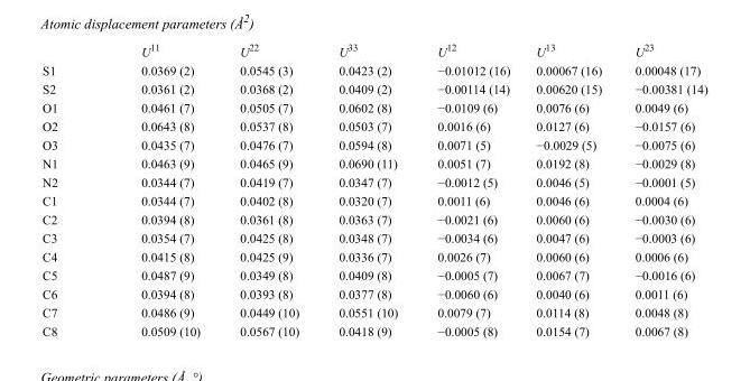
<table><thead><tr><td></td><td>U<sup>11</sup></td><td>U<sup>22</sup></td><td>U<sup>33</sup></td><td>U<sup>12</sup></td><td>U<sup>13</sup></td><td>U<sup>23</sup></td></tr></thead><tbody><tr><td>S1</td><td>0.0369 (2)</td><td>0.0545 (3)</td><td>0.0423 (2)</td><td>−0.01012 (16)</td><td>0.00067 (16)</td><td>0.00048 (17)</td></tr><tr><td>S2</td><td>0.0361 (2)</td><td>0.0368 (2)</td><td>0.0409 (2)</td><td>−0.00114 (14)</td><td>0.00620 (15)</td><td>−0.00381 (14)</td></tr><tr><td>O1</td><td>0.0461 (7)</td><td>0.0505 (7)</td><td>0.0602 (8)</td><td>−0.0109 (6)</td><td>0.0076 (6)</td><td>0.0049 (6)</td></tr><tr><td>O2</td><td>0.0643 (8)</td><td>0.0537 (8)</td><td>0.0503 (7)</td><td>0.0016 (6)</td><td>0.0127 (6)</td><td>−0.0157 (6)</td></tr><tr><td>O3</td><td>0.0435 (7)</td><td>0.0476 (7)</td><td>0.0594 (8)</td><td>0.0071 (5)</td><td>−0.0029 (5)</td><td>−0.0075 (6)</td></tr><tr><td>N1</td><td>0.0463 (9)</td><td>0.0465 (9)</td><td>0.0690 (11)</td><td>0.0051 (7)</td><td>0.0192 (8)</td><td>−0.0029 (8)</td></tr><tr><td>N2</td><td>0.0344 (7)</td><td>0.0419 (7)</td><td>0.0347 (7)</td><td>−0.0012 (5)</td><td>0.0046 (5)</td><td>−0.0001 (5)</td></tr><tr><td>C1</td><td>0.0344 (7)</td><td>0.0402 (8)</td><td>0.0320 (7)</td><td>0.0011 (6)</td><td>0.0046 (6)</td><td>0.0004 (6)</td></tr><tr><td>C2</td><td>0.0394 (8)</td><td>0.0361 (8)</td><td>0.0363 (7)</td><td>−0.0021 (6)</td><td>0.0060 (6)</td><td>−0.0030 (6)</td></tr><tr><td>C3</td><td>0.0354 (7)</td><td>0.0425 (8)</td><td>0.0348 (7)</td><td>−0.0034 (6)</td><td>0.0047 (6)</td><td>−0.0003 (6)</td></tr><tr><td>C4</td><td>0.0415 (8)</td><td>0.0425 (9)</td><td>0.0336 (7)</td><td>0.0026 (7)</td><td>0.0060 (6)</td><td>0.0006 (6)</td></tr><tr><td>C5</td><td>0.0487 (9)</td><td>0.0349 (8)</td><td>0.0409 (8)</td><td>−0.0005 (7)</td><td>0.0067 (7)</td><td>−0.0016 (6)</td></tr><tr><td>C6</td><td>0.0394 (8)</td><td>0.0393 (8)</td><td>0.0377 (8)</td><td>−0.0060 (6)</td><td>0.0040 (6)</td><td>0.0011 (6)</td></tr><tr><td>C7</td><td>0.0486 (9)</td><td>0.0449 (10)</td><td>0.0551 (10)</td><td>0.0079 (7)</td><td>0.0114 (8)</td><td>0.0048 (8)</td></tr><tr><td>C8</td><td>0.0509 (10)</td><td>0.0567 (10)</td><td>0.0418 (9)</td><td>−0.0005 (8)</td><td>0.0154 (7)</td><td>0.0067 (8)</td></tr></tbody></table>